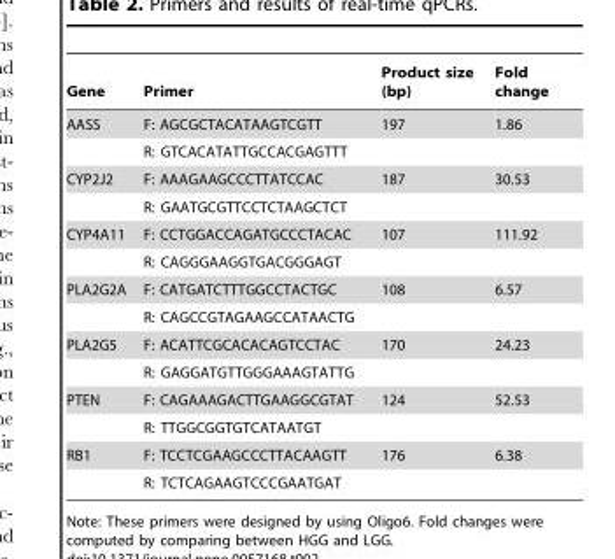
<table><thead><tr><td>Gene</td><td>Primer</td><td>Product size (bp)</td><td>Fold change</td></tr></thead><tbody><tr><td rowspan="2">AASS</td><td>F: AGCGCTACATAAGTCGTT</td><td>197</td><td>1.86</td></tr><tr><td>R: GTCACATATTGCCACGAGTTT</td><td></td><td></td></tr><tr><td rowspan="2">CYP2J2</td><td>F: AAAGAAGCCCTTATCCAC</td><td>187</td><td>30.53</td></tr><tr><td>R: GAATGCGTTCCTCTAAGCTCT</td><td></td><td></td></tr><tr><td rowspan="2">CYP4A11</td><td>F: CCTGGACCAGATGCCCTACAC</td><td>107</td><td>111.92</td></tr><tr><td>R: CAGGGAAGGTGACGGGAGT</td><td></td><td></td></tr><tr><td rowspan="2">PLA2G2A</td><td>F: CATGATCTTTGGCCTACTGC</td><td>108</td><td>6.57</td></tr><tr><td>R: CAGCCGTAGAAGCCATAACTG</td><td></td><td></td></tr><tr><td rowspan="2">PLA2G5</td><td>F: ACATTCGCACACAGTCCTAC</td><td>170</td><td>24.23</td></tr><tr><td>R: GAGGATGTTGGGAAAGTATTG</td><td></td><td></td></tr><tr><td rowspan="2">PTEN</td><td>F: CAGAAAGACTTGAAGGCGTAT</td><td>124</td><td>52.53</td></tr><tr><td>R: TTGGCGGTGTCATAATGT</td><td></td><td></td></tr><tr><td rowspan="2">RB1</td><td>F: TCCTCGAAGCCCTTACAAGTT</td><td>176</td><td>6.38</td></tr><tr><td>R: TCTCAGAAGTCCCGAATGAT</td><td></td><td></td></tr></tbody></table>